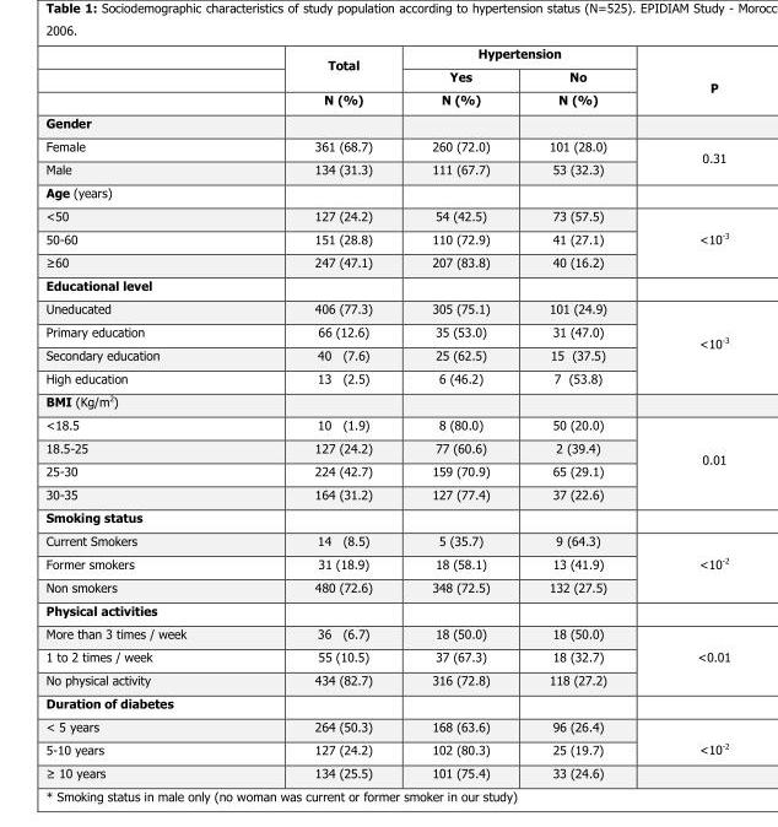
<table><thead><tr><td rowspan="3"></td><td rowspan="3">Total N (%)</td><td colspan="2">Hypertension</td><td rowspan="3">P</td></tr><tr><td rowspan="2">Yes N (%)</td><td rowspan="2">No N (%)</td></tr><tr></tr></thead><tbody><tr><td colspan="5">Gender</td></tr><tr><td>Female</td><td>361 (68.7)</td><td>260 (72.0)</td><td>101 (28.0)</td><td rowspan="2">0.31</td></tr><tr><td>Male</td><td>134 (31.3)</td><td>111 (67.7)</td><td>53 (32.3)</td></tr><tr><td colspan="5">Age (years)</td></tr><tr><td>&lt;50</td><td>127 (24.2)</td><td>54 (42.5)</td><td>73 (57.5)</td><td rowspan="3">&lt;10<sup>-3</sup></td></tr><tr><td>50-60</td><td>151 (28.8)</td><td>110 (72.9)</td><td>41 (27.1)</td></tr><tr><td>≥60</td><td>247 (47.1)</td><td>207 (83.8)</td><td>40 (16.2)</td></tr><tr><td colspan="5">Educational level</td></tr><tr><td>Uneducated</td><td>406 (77.3)</td><td>305 (75.1)</td><td>101 (24.9)</td><td rowspan="4">&lt;10<sup>-3</sup></td></tr><tr><td>Primary education</td><td>66 (12.6)</td><td>35 (53.0)</td><td>31 (47.0)</td></tr><tr><td>Secondary education</td><td>40 (7.6)</td><td>25 (62.5)</td><td>15 (37.5)</td></tr><tr><td>High education</td><td>13 (2.5)</td><td>6 (46.2)</td><td>7 (53.8)</td></tr><tr><td colspan="5">BMI (Kg/m<sup>2</sup>)</td></tr><tr><td>&lt;18.5</td><td>10 (1.9)</td><td>8 (80.0)</td><td>50 (20.0)</td><td rowspan="4">0.01</td></tr><tr><td>18.5-25</td><td>127 (24.2)</td><td>77 (60.6)</td><td>2 (39.4)</td></tr><tr><td>25-30</td><td>224 (42.7)</td><td>159 (70.9)</td><td>65 (29.1)</td></tr><tr><td>30-35</td><td>164 (31.2)</td><td>127 (77.4)</td><td>37 (22.6)</td></tr><tr><td colspan="5">Smoking status</td></tr><tr><td>Current Smokers</td><td>14 (8.5)</td><td>5 (35.7)</td><td>9 (64.3)</td><td rowspan="3">&lt;10<sup>-2</sup></td></tr><tr><td>Former smokers</td><td>31 (18.9)</td><td>18 (58.1)</td><td>13 (41.9)</td></tr><tr><td>Non smokers</td><td>480 (72.6)</td><td>348 (72.5)</td><td>132 (27.5)</td></tr><tr><td colspan="5">Physical activities</td></tr><tr><td>More than 3 times / week</td><td>36 (6.7)</td><td>18 (50.0)</td><td>18 (50.0)</td><td rowspan="3">&lt;0.01</td></tr><tr><td>1 to 2 times / week</td><td>55 (10.5)</td><td>37 (67.3)</td><td>18 (32.7)</td></tr><tr><td>No physical activity</td><td>434 (82.7)</td><td>316 (72.8)</td><td>118 (27.2)</td></tr><tr><td colspan="5">Duration of diabetes</td></tr><tr><td>&lt; 5 years</td><td>264 (50.3)</td><td>168 (63.6)</td><td>96 (26.4)</td><td rowspan="3">&lt;10<sup>-2</sup></td></tr><tr><td>5-10 years</td><td>127 (24.2)</td><td>102 (80.3)</td><td>25 (19.7)</td></tr><tr><td>≥ 10 years</td><td>134 (25.5)</td><td>101 (75.4)</td><td>33 (24.6)</td></tr></tbody></table>